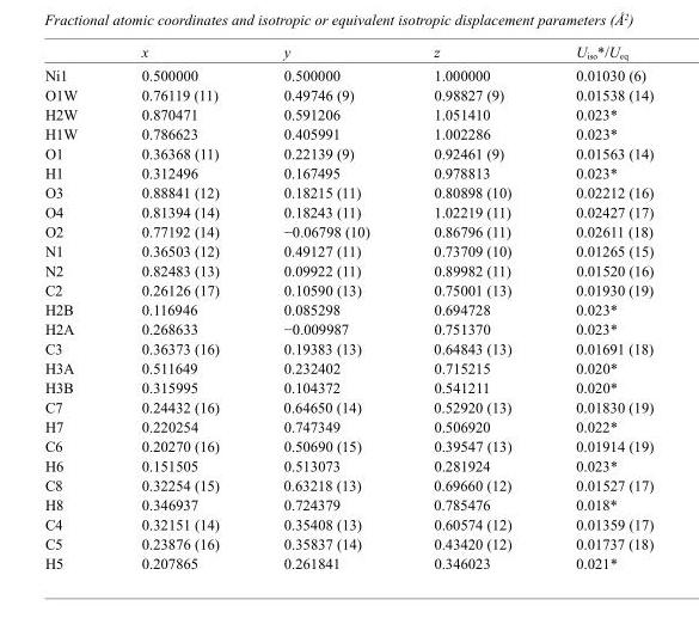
<table><thead><tr><td></td><td>x</td><td>y</td><td>z</td><td>U<sub>iso</sub>*/U<sub>eq</sub></td></tr></thead><tbody><tr><td>Ni1</td><td>0.500000</td><td>0.500000</td><td>1.000000</td><td>0.01030 (6)</td></tr><tr><td>O1W</td><td>0.76119 (11)</td><td>0.49746 (9)</td><td>0.98827 (9)</td><td>0.01538 (14)</td></tr><tr><td>H2W</td><td>0.870471</td><td>0.591206</td><td>1.051410</td><td>0.023*</td></tr><tr><td>H1W</td><td>0.786623</td><td>0.405991</td><td>1.002286</td><td>0.023*</td></tr><tr><td>O1</td><td>0.36368 (11)</td><td>0.22139 (9)</td><td>0.92461 (9)</td><td>0.01563 (14)</td></tr><tr><td>H1</td><td>0.312496</td><td>0.167495</td><td>0.978813</td><td>0.023*</td></tr><tr><td>O3</td><td>0.88841 (12)</td><td>0.18215 (11)</td><td>0.80898 (10)</td><td>0.02212 (16)</td></tr><tr><td>O4</td><td>0.81394 (14)</td><td>0.18243 (11)</td><td>1.02219 (11)</td><td>0.02427 (17)</td></tr><tr><td>O2</td><td>0.77192 (14)</td><td>−0.06798 (10)</td><td>0.86796 (11)</td><td>0.02611 (18)</td></tr><tr><td>N1</td><td>0.36503 (12)</td><td>0.49127 (11)</td><td>0.73709 (10)</td><td>0.01265 (15)</td></tr><tr><td>N2</td><td>0.82483 (13)</td><td>0.09922 (11)</td><td>0.89982 (11)</td><td>0.01520 (16)</td></tr><tr><td>C2</td><td>0.26126 (17)</td><td>0.10590 (13)</td><td>0.75001 (13)</td><td>0.01930 (19)</td></tr><tr><td>H2B</td><td>0.116946</td><td>0.085298</td><td>0.694728</td><td>0.023*</td></tr><tr><td>H2A</td><td>0.268633</td><td>−0.009987</td><td>0.751370</td><td>0.023*</td></tr><tr><td>C3</td><td>0.36373 (16)</td><td>0.19383 (13)</td><td>0.64843 (13)</td><td>0.01691 (18)</td></tr><tr><td>H3A</td><td>0.511649</td><td>0.232402</td><td>0.715215</td><td>0.020*</td></tr><tr><td>H3B</td><td>0.315995</td><td>0.104372</td><td>0.541211</td><td>0.020*</td></tr><tr><td>C7</td><td>0.24432 (16)</td><td>0.64650 (14)</td><td>0.52920 (13)</td><td>0.01830 (19)</td></tr><tr><td>H7</td><td>0.220254</td><td>0.747349</td><td>0.506920</td><td>0.022*</td></tr><tr><td>C6</td><td>0.20270 (16)</td><td>0.50690 (15)</td><td>0.39547 (13)</td><td>0.01914 (19)</td></tr><tr><td>H6</td><td>0.151505</td><td>0.513073</td><td>0.281924</td><td>0.023*</td></tr><tr><td>C8</td><td>0.32254 (15)</td><td>0.63218 (13)</td><td>0.69660 (12)</td><td>0.01527 (17)</td></tr><tr><td>H8</td><td>0.346937</td><td>0.724379</td><td>0.785476</td><td>0.018*</td></tr><tr><td>C4</td><td>0.32151 (14)</td><td>0.35408 (13)</td><td>0.60574 (12)</td><td>0.01359 (17)</td></tr><tr><td>C5</td><td>0.23876 (16)</td><td>0.35837 (14)</td><td>0.43420 (12)</td><td>0.01737 (18)</td></tr><tr><td>H5</td><td>0.207865</td><td>0.261841</td><td>0.346023</td><td>0.021*</td></tr></tbody></table>